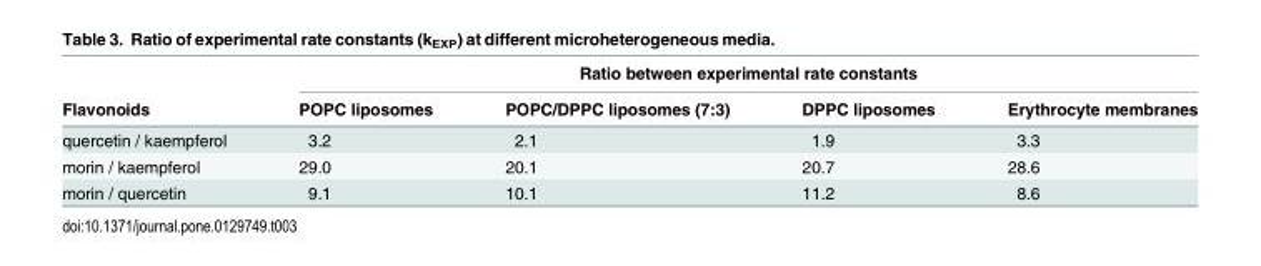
<table><thead><tr><td rowspan="2">Flavonoids</td><td colspan="4">Ratio between experimental rate constants</td></tr><tr><td>POPC liposomes</td><td>POPC/DPPC liposomes (7:3)</td><td>DPPC liposomes</td><td>Erythrocyte membranes</td></tr></thead><tbody><tr><td>quercetin / kaempferol</td><td>3.2</td><td>2.1</td><td>1.9</td><td>3.3</td></tr><tr><td>morin / kaempferol</td><td>29.0</td><td>20.1</td><td>20.7</td><td>28.6</td></tr><tr><td>morin / quercetin</td><td>9.1</td><td>10.1</td><td>11.2</td><td>8.6</td></tr></tbody></table>